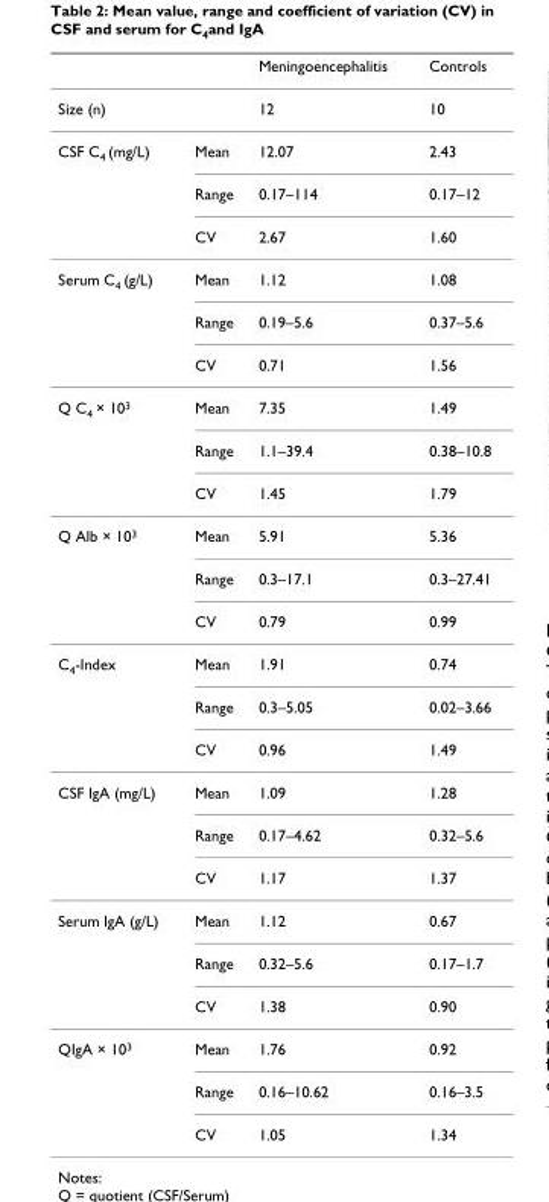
<table><thead><tr><td></td><td></td><td>Meningoencephalitis</td><td>Controls</td></tr></thead><tbody><tr><td>Size (n)</td><td></td><td>12</td><td>10</td></tr><tr><td rowspan="3">CSF C<sub>4</sub> (mg/L)</td><td>Mean</td><td>12.07</td><td>2.43</td></tr><tr><td>Range</td><td>0.17–114</td><td>0.17–12</td></tr><tr><td>CV</td><td>2.67</td><td>1.60</td></tr><tr><td rowspan="3">Serum C<sub>4</sub> (g/L)</td><td>Mean</td><td>1.12</td><td>1.08</td></tr><tr><td>Range</td><td>0.19–5.6</td><td>0.37–5.6</td></tr><tr><td>CV</td><td>0.71</td><td>1.56</td></tr><tr><td rowspan="3">Q C<sub>4</sub> × 10<sup>3</sup></td><td>Mean</td><td>7.35</td><td>1.49</td></tr><tr><td>Range</td><td>1.1–39.4</td><td>0.38–10.8</td></tr><tr><td>CV</td><td>1.45</td><td>1.79</td></tr><tr><td rowspan="3">Q Alb × 10<sup>3</sup></td><td>Mean</td><td>5.91</td><td>5.36</td></tr><tr><td>Range</td><td>0.3–17.1</td><td>0.3–27.41</td></tr><tr><td>CV</td><td>0.79</td><td>0.99</td></tr><tr><td rowspan="3">C<sub>4</sub>-Index</td><td>Mean</td><td>1.91</td><td>0.74</td></tr><tr><td>Range</td><td>0.3–5.05</td><td>0.02–3.66</td></tr><tr><td>CV</td><td>0.96</td><td>1.49</td></tr><tr><td rowspan="3">CSF IgA (mg/L)</td><td>Mean</td><td>1.09</td><td>1.28</td></tr><tr><td>Range</td><td>0.17–4.62</td><td>0.32–5.6</td></tr><tr><td>CV</td><td>1.17</td><td>1.37</td></tr><tr><td rowspan="3">Serum IgA (g/L)</td><td>Mean</td><td>1.12</td><td>0.67</td></tr><tr><td>Range</td><td>0.32–5.6</td><td>0.17–1.7</td></tr><tr><td>CV</td><td>1.38</td><td>0.90</td></tr><tr><td rowspan="3">QIgA × 10<sup>3</sup></td><td>Mean</td><td>1.76</td><td>0.92</td></tr><tr><td>Range</td><td>0.16–10.62</td><td>0.16–3.5</td></tr><tr><td>CV</td><td>1.05</td><td>1.34</td></tr></tbody></table>